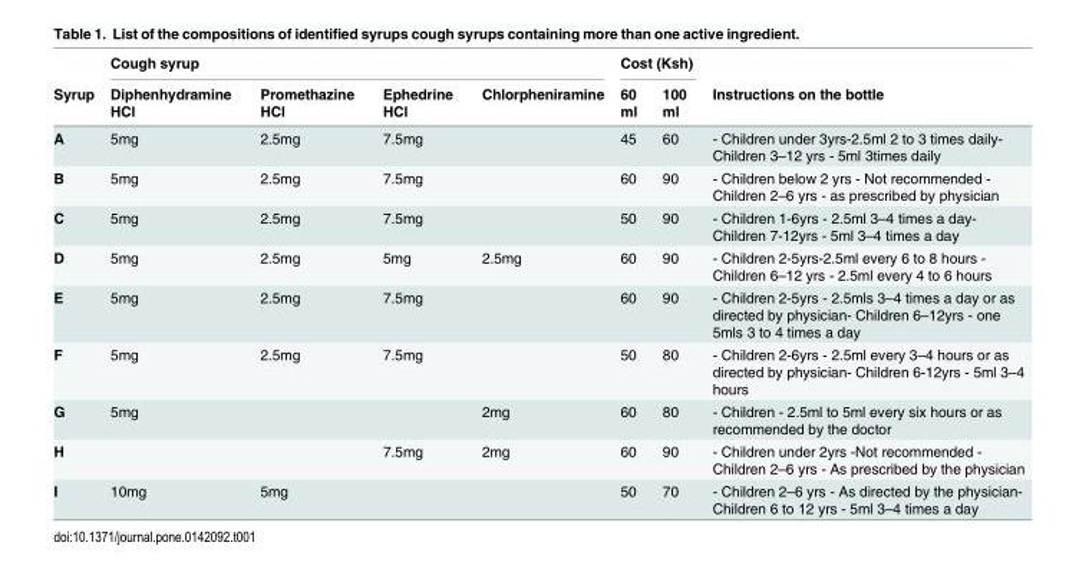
<table><thead><tr><td rowspan="2">Syrup</td><td colspan="4">Cough syrup</td><td colspan="2">Cost (Ksh)</td><td rowspan="2">Instructions on the bottle</td></tr><tr><td>Diphenhydramine HCl</td><td>Promethazine HCl</td><td>Ephedrine HCl</td><td>Chlorpheniramine</td><td>60 ml</td><td>100 ml</td></tr></thead><tbody><tr><td>A</td><td>5mg</td><td>2.5mg</td><td>7.5mg</td><td></td><td>45</td><td>60</td><td>- Children under 3yrs-2.5ml 2 to 3 times daily- Children 3–12 yrs - 5ml 3times daily</td></tr><tr><td>B</td><td>5mg</td><td>2.5mg</td><td>7.5mg</td><td></td><td>60</td><td>90</td><td>- Children below 2 yrs - Not recommended - Children 2–6 yrs - as prescribed by physician</td></tr><tr><td>C</td><td>5mg</td><td>2.5mg</td><td>7.5mg</td><td></td><td>50</td><td>90</td><td>- Children 1-6yrs - 2.5ml 3–4 times a day- Children 7-12yrs - 5ml 3–4 times a day</td></tr><tr><td>D</td><td>5mg</td><td>2.5mg</td><td>5mg</td><td>2.5mg</td><td>60</td><td>90</td><td>- Children 2-5yrs-2.5ml every 6 to 8 hours - Children 6–12 yrs - 2.5ml every 4 to 6 hours</td></tr><tr><td>E</td><td>5mg</td><td>2.5mg</td><td>7.5mg</td><td></td><td>60</td><td>90</td><td>- Children 2-5yrs - 2.5mls 3–4 times a day or as directed by physician- Children 6–12yrs - one 5mls 3 to 4 times a day</td></tr><tr><td>F</td><td>5mg</td><td>2.5mg</td><td>7.5mg</td><td></td><td>50</td><td>80</td><td>- Children 2-6yrs - 2.5ml every 3–4 hours or as directed by physician- Children 6-12yrs - 5ml 3–4 hours</td></tr><tr><td>G</td><td>5mg</td><td></td><td></td><td>2mg</td><td>60</td><td>80</td><td>- Children - 2.5ml to 5ml every six hours or as recommended by the doctor</td></tr><tr><td>H</td><td></td><td></td><td>7.5mg</td><td>2mg</td><td>60</td><td>90</td><td>- Children under 2yrs -Not recommended - Children 2–6 yrs - As prescribed by the physician</td></tr><tr><td>I</td><td>10mg</td><td>5mg</td><td></td><td></td><td>50</td><td>70</td><td>- Children 2–6 yrs - As directed by the physician- Children 6 to 12 yrs - 5ml 3–4 times a day</td></tr></tbody></table>